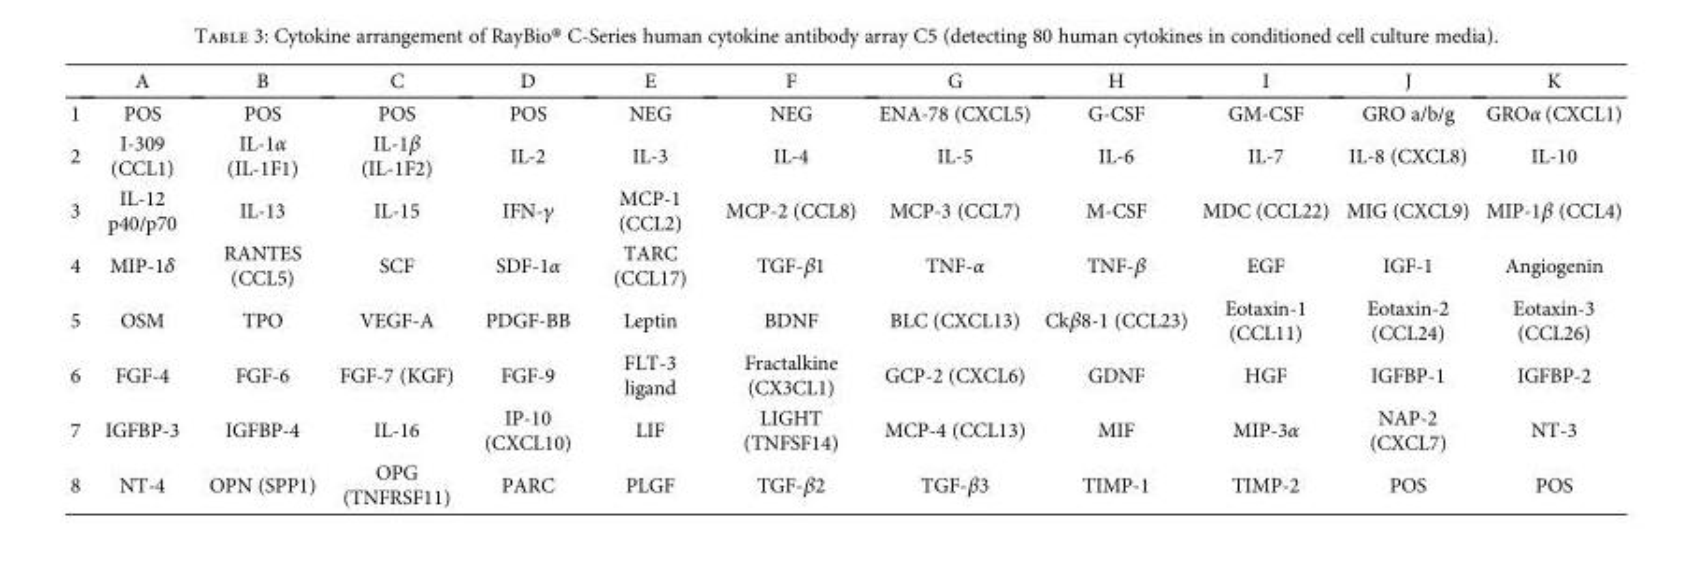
<table><thead><tr><td></td><td>A</td><td>B</td><td>C</td><td>D</td><td>E</td><td>F</td><td>G</td><td>H</td><td>I</td><td>J</td><td>K</td></tr></thead><tbody><tr><td>1</td><td>POS</td><td>POS</td><td>POS</td><td>POS</td><td>NEG</td><td>NEG</td><td>ENA-78 (CXCL5)</td><td>G-CSF</td><td>GM-CSF</td><td>GRO a/b/g</td><td>GROα (CXCL1)</td></tr><tr><td>2</td><td>I-309 (CCL1)</td><td>IL-1α (IL-1F1)</td><td>IL-1β (IL-1F2)</td><td>IL-2</td><td>IL-3</td><td>IL-4</td><td>IL-5</td><td>IL-6</td><td>IL-7</td><td>IL-8 (CXCL8)</td><td>IL-10</td></tr><tr><td>3</td><td>IL-12 p40/p70</td><td>IL-13</td><td>IL-15</td><td>IFN-γ</td><td>MCP-1 (CCL2)</td><td>MCP-2 (CCL8)</td><td>MCP-3 (CCL7)</td><td>M-CSF</td><td>MDC (CCL22)</td><td>MIG (CXCL9)</td><td>MIP-1β (CCL4)</td></tr><tr><td>4</td><td>MIP-1δ</td><td>RANTES (CCL5)</td><td>SCF</td><td>SDF-1α</td><td>TARC (CCL17)</td><td>TGF-β1</td><td>TNF-α</td><td>TNF-β</td><td>EGF</td><td>IGF-1</td><td>Angiogenin</td></tr><tr><td>5</td><td>OSM</td><td>TPO</td><td>VEGF-A</td><td>PDGF-BB</td><td>Leptin</td><td>BDNF</td><td>BLC (CXCL13)</td><td>Ckβ8-1 (CCL23)</td><td>Eotaxin-1 (CCL11)</td><td>Eotaxin-2 (CCL24)</td><td>Eotaxin-3 (CCL26)</td></tr><tr><td>6</td><td>FGF-4</td><td>FGF-6</td><td>FGF-7 (KGF)</td><td>FGF-9</td><td>FLT-3 ligand</td><td>Fractalkine (CX3CL1)</td><td>GCP-2 (CXCL6)</td><td>GDNF</td><td>HGF</td><td>IGFBP-1</td><td>IGFBP-2</td></tr><tr><td>7</td><td>IGFBP-3</td><td>IGFBP-4</td><td>IL-16</td><td>IP-10 (CXCL10)</td><td>LIF</td><td>LIGHT (TNFSF14)</td><td>MCP-4 (CCL13)</td><td>MIF</td><td>MIP-3α</td><td>NAP-2 (CXCL7)</td><td>NT-3</td></tr><tr><td>8</td><td>NT-4</td><td>OPN (SPP1)</td><td>OPG (TNFRSF11)</td><td>PARC</td><td>PLGF</td><td>TGF-β2</td><td>TGF-β3</td><td>TIMP-1</td><td>TIMP-2</td><td>POS</td><td>POS</td></tr></tbody></table>